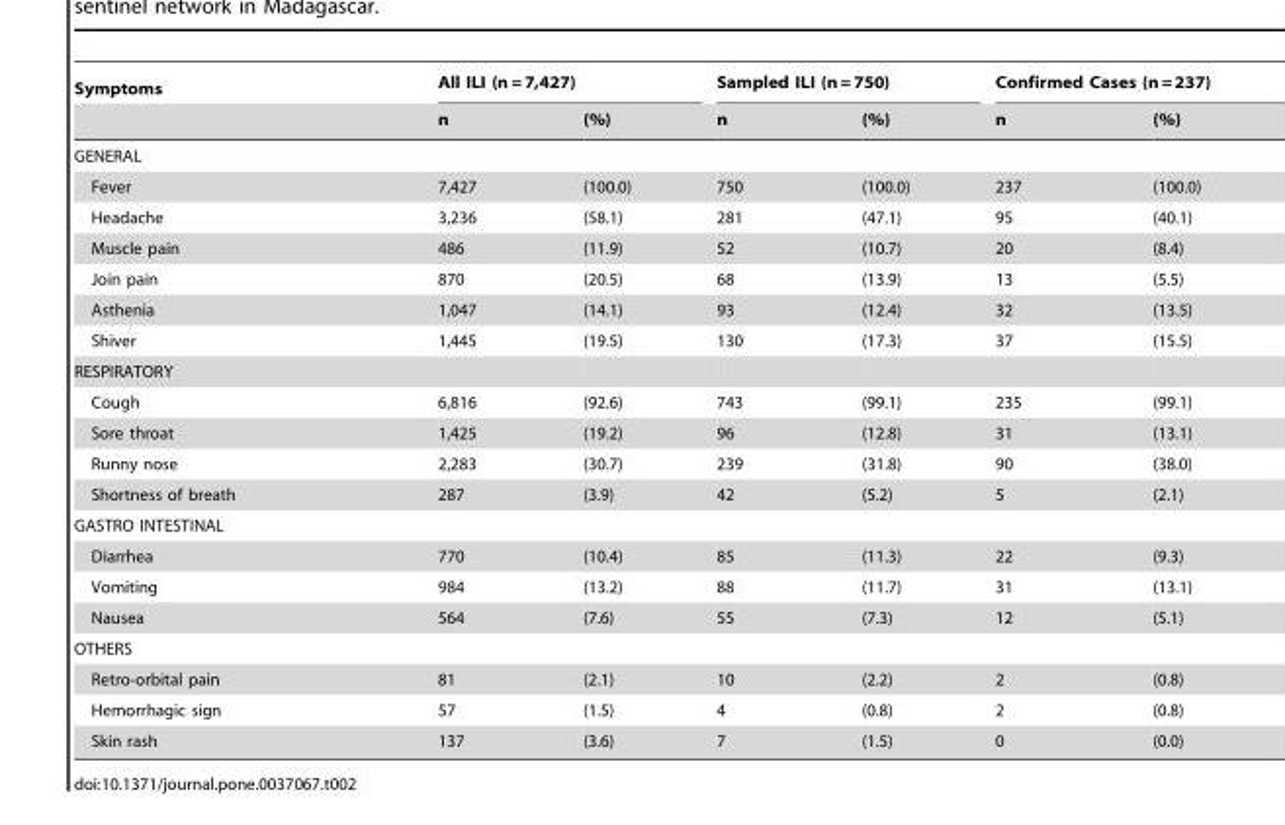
<table><thead><tr><td rowspan="2">Symptoms</td><td colspan="2">All ILI (n = 7,427)</td><td colspan="2">Sampled ILI (n = 750)</td><td colspan="2">Confirmed Cases (n = 237)</td></tr><tr><td>n</td><td>(%)</td><td>n</td><td>(%)</td><td>n</td><td>(%)</td></tr></thead><tbody><tr><td colspan="7">GENERAL</td></tr><tr><td>Fever</td><td>7,427</td><td>(100.0)</td><td>750</td><td>(100.0)</td><td>237</td><td>(100.0)</td></tr><tr><td>Headache</td><td>3,236</td><td>(58.1)</td><td>281</td><td>(47.1)</td><td>95</td><td>(40.1)</td></tr><tr><td>Muscle pain</td><td>486</td><td>(11.9)</td><td>52</td><td>(10.7)</td><td>20</td><td>(8.4)</td></tr><tr><td>Join pain</td><td>870</td><td>(20.5)</td><td>68</td><td>(13.9)</td><td>13</td><td>(5.5)</td></tr><tr><td>Asthenia</td><td>1,047</td><td>(14.1)</td><td>93</td><td>(12.4)</td><td>32</td><td>(13.5)</td></tr><tr><td>Shiver</td><td>1,445</td><td>(19.5)</td><td>130</td><td>(17.3)</td><td>37</td><td>(15.5)</td></tr><tr><td colspan="7">RESPIRATORY</td></tr><tr><td>Cough</td><td>6,816</td><td>(92.6)</td><td>743</td><td>(99.1)</td><td>235</td><td>(99.1)</td></tr><tr><td>Sore throat</td><td>1,425</td><td>(19.2)</td><td>96</td><td>(12.8)</td><td>31</td><td>(13.1)</td></tr><tr><td>Runny nose</td><td>2,283</td><td>(30.7)</td><td>239</td><td>(31.8)</td><td>90</td><td>(38.0)</td></tr><tr><td>Shortness of breath</td><td>287</td><td>(3.9)</td><td>42</td><td>(5.2)</td><td>5</td><td>(2.1)</td></tr><tr><td colspan="7">GASTRO INTESTINAL</td></tr><tr><td>Diarrhea</td><td>770</td><td>(10.4)</td><td>85</td><td>(11.3)</td><td>22</td><td>(9.3)</td></tr><tr><td>Vomiting</td><td>984</td><td>(13.2)</td><td>88</td><td>(11.7)</td><td>31</td><td>(13.1)</td></tr><tr><td>Nausea</td><td>564</td><td>(7.6)</td><td>55</td><td>(7.3)</td><td>12</td><td>(5.1)</td></tr><tr><td colspan="7">OTHERS</td></tr><tr><td>Retro-orbital pain</td><td>81</td><td>(2.1)</td><td>10</td><td>(2.2)</td><td>2</td><td>(0.8)</td></tr><tr><td>Hemorrhagic sign</td><td>57</td><td>(1.5)</td><td>4</td><td>(0.8)</td><td>2</td><td>(0.8)</td></tr><tr><td>Skin rash</td><td>137</td><td>(3.6)</td><td>7</td><td>(1.5)</td><td>0</td><td>(0.0)</td></tr></tbody></table>